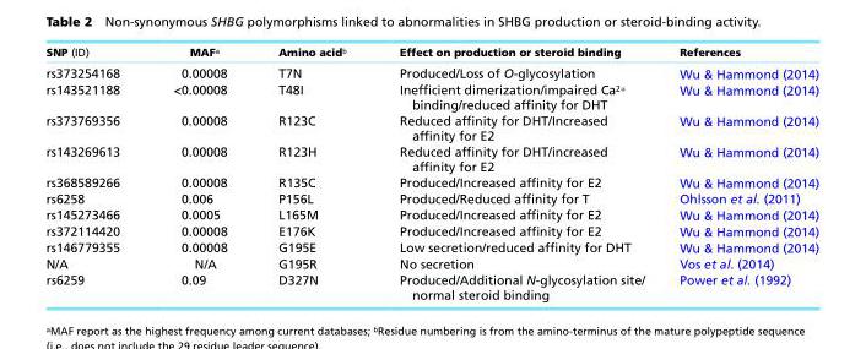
<table><thead><tr><td>SNP (ID)</td><td>MAF<sup>a</sup></td><td>Amino acid<sup>b</sup></td><td>Effect on production or steroid binding</td><td>References</td></tr></thead><tbody><tr><td>rs373254168</td><td>0.00008</td><td>T7N</td><td>Produced/Loss of O-glycosylation</td><td>Wu &amp; Hammond (2014)</td></tr><tr><td>rs143521188</td><td>&lt;0.00008</td><td>T48I</td><td>Inefficient dimerization/impaired Ca<sup>2+</sup> binding/reduced affinity for DHT</td><td>Wu &amp; Hammond (2014)</td></tr><tr><td>rs373769356</td><td>0.00008</td><td>R123C</td><td>Reduced affinity for DHT/Increased affinity for E2</td><td>Wu &amp; Hammond (2014)</td></tr><tr><td>rs143269613</td><td>0.00008</td><td>R123H</td><td>Reduced affinity for DHT/increased affinity for E2</td><td>Wu &amp; Hammond (2014)</td></tr><tr><td>rs368589266</td><td>0.00008</td><td>R135C</td><td>Produced/Increased affinity for E2</td><td>Wu &amp; Hammond (2014)</td></tr><tr><td>rs6258</td><td>0.006</td><td>P156L</td><td>Produced/Reduced affinity for T</td><td>Ohlsson et al. (2011)</td></tr><tr><td>rs145273466</td><td>0.0005</td><td>L165M</td><td>Produced/Increased affinity for E2</td><td>Wu &amp; Hammond (2014)</td></tr><tr><td>rs372114420</td><td>0.00008</td><td>E176K</td><td>Produced/Increased affinity for E2</td><td>Wu &amp; Hammond (2014)</td></tr><tr><td>rs146779355</td><td>0.00008</td><td>G195E</td><td>Low secretion/reduced affinity for DHT</td><td>Wu &amp; Hammond (2014)</td></tr><tr><td>N/A</td><td>N/A</td><td>G195R</td><td>No secretion</td><td>Vos et al. (2014)</td></tr><tr><td>rs6259</td><td>0.09</td><td>D327N</td><td>Produced/Additional N-glycosylation site/ normal steroid binding</td><td>Power et al. (1992)</td></tr></tbody></table>